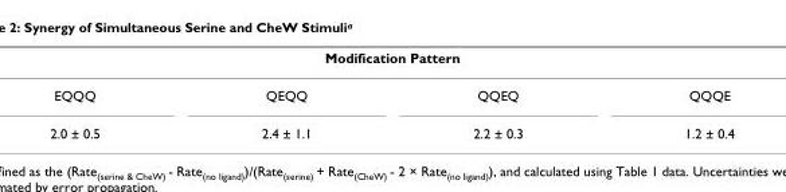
<table><thead><tr><td colspan="4">Modification Pattern</td></tr><tr><td>EQQQ</td><td>QEQQ</td><td>QQEQ</td><td>QQQE</td></tr></thead><tbody><tr><td>2.0 ± 0.5</td><td>2.4 ± 1.1</td><td>2.2 ± 0.3</td><td>1.2 ± 0.4</td></tr></tbody></table>